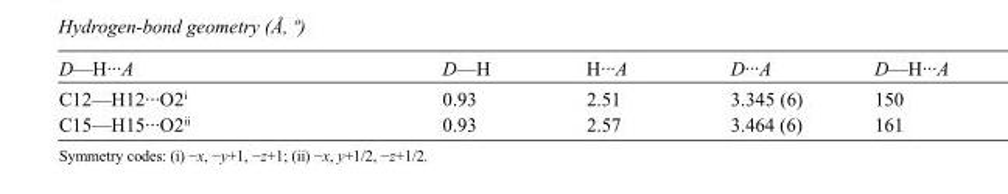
<table><tbody><tr><td>D—H···A</td><td>D—H</td><td>H···A</td><td>D···A</td><td>D—H···A</td></tr><tr><td>C12—H12···O2<sup>i</sup></td><td>0.93</td><td>2.51</td><td>3.345 (6)</td><td>150</td></tr><tr><td>C15—H15···O2<sup>ii</sup></td><td>0.93</td><td>2.57</td><td>3.464 (6)</td><td>161</td></tr></tbody></table>